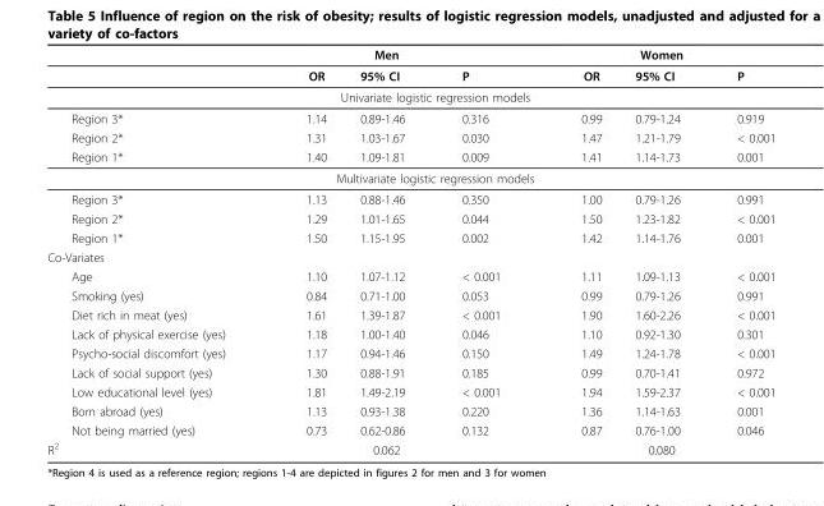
<table><thead><tr><td rowspan="2"></td><td colspan="3">Men</td><td colspan="3">Women</td></tr><tr><td>OR</td><td>95% CI</td><td>P</td><td>OR</td><td>95% CI</td><td>P</td></tr></thead><tbody><tr><td colspan="7">Univariate logistic regression models</td></tr><tr><td>Region 3*</td><td>1.14</td><td>0.89-1.46</td><td>0.316</td><td>0.99</td><td>0.79-1.24</td><td>0.919</td></tr><tr><td>Region 2*</td><td>1.31</td><td>1.03-1.67</td><td>0.030</td><td>1.47</td><td>1.21-1.79</td><td>&lt; 0.001</td></tr><tr><td>Region 1*</td><td>1.40</td><td>1.09-1.81</td><td>0.009</td><td>1.41</td><td>1.14-1.73</td><td>0.001</td></tr><tr><td colspan="7">Multivariate logistic regression models</td></tr><tr><td>Region 3*</td><td>1.13</td><td>0.88-1.46</td><td>0.350</td><td>1.00</td><td>0.79-1.26</td><td>0.991</td></tr><tr><td>Region 2*</td><td>1.29</td><td>1.01-1.65</td><td>0.044</td><td>1.50</td><td>1.23-1.82</td><td>&lt; 0.001</td></tr><tr><td>Region 1*</td><td>1.50</td><td>1.15-1.95</td><td>0.002</td><td>1.42</td><td>1.14-1.76</td><td>0.001</td></tr><tr><td colspan="7">Co-Variates</td></tr><tr><td>Age</td><td>1.10</td><td>1.07-1.12</td><td>&lt; 0.001</td><td>1.11</td><td>1.09-1.13</td><td>&lt; 0.001</td></tr><tr><td>Smoking (yes)</td><td>0.84</td><td>0.71-1.00</td><td>0.053</td><td>0.99</td><td>0.79-1.26</td><td>0.991</td></tr><tr><td>Diet rich in meat (yes)</td><td>1.61</td><td>1.39-1.87</td><td>&lt; 0.001</td><td>1.90</td><td>1.60-2.26</td><td>&lt; 0.001</td></tr><tr><td>Lack of physical exercise (yes)</td><td>1.18</td><td>1.00-1.40</td><td>0.046</td><td>1.10</td><td>0.92-1.30</td><td>0.301</td></tr><tr><td>Psycho-social discomfort (yes)</td><td>1.17</td><td>0.94-1.46</td><td>0.150</td><td>1.49</td><td>1.24-1.78</td><td>&lt; 0.001</td></tr><tr><td>Lack of social support (yes)</td><td>1.30</td><td>0.88-1.91</td><td>0.185</td><td>0.99</td><td>0.70-1.41</td><td>0.972</td></tr><tr><td>Low educational level (yes)</td><td>1.81</td><td>1.49-2.19</td><td>&lt; 0.001</td><td>1.94</td><td>1.59-2.37</td><td>&lt; 0.001</td></tr><tr><td>Born abroad (yes)</td><td>1.13</td><td>0.93-1.38</td><td>0.220</td><td>1.36</td><td>1.14-1.63</td><td>0.001</td></tr><tr><td>Not being married (yes)</td><td>0.73</td><td>0.62-0.86</td><td>0.132</td><td>0.87</td><td>0.76-1.00</td><td>0.046</td></tr><tr><td>R<sup>2</sup></td><td colspan="3">0.062</td><td colspan="3">0.080</td></tr></tbody></table>